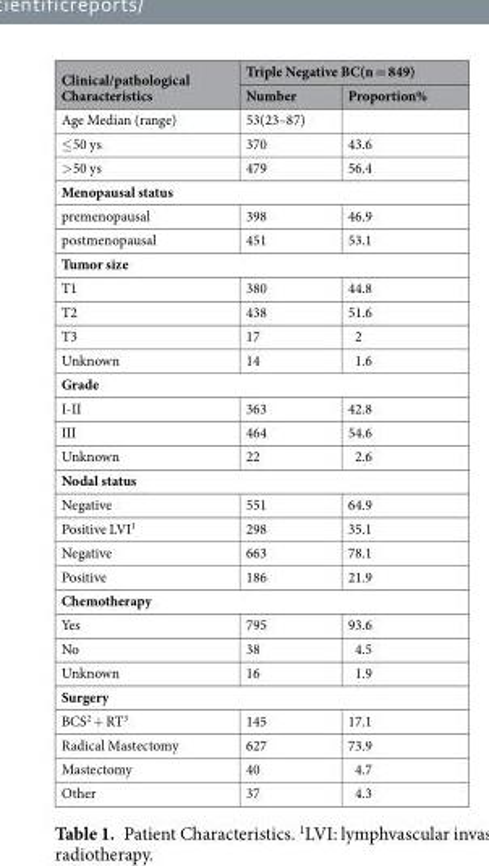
<table><thead><tr><td rowspan="2">Clinical/pathological Characteristics</td><td colspan="2">Triple Negative BC(n = 849)</td></tr><tr><td>Number</td><td>Proportion%</td></tr></thead><tbody><tr><td>Age Median (range)</td><td>53(23–87)</td><td></td></tr><tr><td>≤50 ys</td><td>370</td><td>43.6</td></tr><tr><td>&gt;50 ys</td><td>479</td><td>56.4</td></tr><tr><td colspan="3">Menopausal status</td></tr><tr><td>premenopausal</td><td>398</td><td>46.9</td></tr><tr><td>postmenopausal</td><td>451</td><td>53.1</td></tr><tr><td colspan="3">Tumor size</td></tr><tr><td>T1</td><td>380</td><td>44.8</td></tr><tr><td>T2</td><td>438</td><td>51.6</td></tr><tr><td>T3</td><td>17</td><td>2</td></tr><tr><td>Unknown</td><td>14</td><td>1.6</td></tr><tr><td colspan="3">Grade</td></tr><tr><td>I-II</td><td>363</td><td>42.8</td></tr><tr><td>III</td><td>464</td><td>54.6</td></tr><tr><td>Unknown</td><td>22</td><td>2.6</td></tr><tr><td colspan="3">Nodal status</td></tr><tr><td>Negative</td><td>551</td><td>64.9</td></tr><tr><td>Positive LVI<sup>1</sup></td><td>298</td><td>35.1</td></tr><tr><td>Negative</td><td>663</td><td>78.1</td></tr><tr><td>Positive</td><td>186</td><td>21.9</td></tr><tr><td colspan="3">Chemotherapy</td></tr><tr><td>Yes</td><td>795</td><td>93.6</td></tr><tr><td>No</td><td>38</td><td>4.5</td></tr><tr><td>Unknown</td><td>16</td><td>1.9</td></tr><tr><td colspan="3">Surgery</td></tr><tr><td>BCS<sup>2</sup> + RT<sup>3</sup></td><td>145</td><td>17.1</td></tr><tr><td>Radical Mastectomy</td><td>627</td><td>73.9</td></tr><tr><td>Mastectomy</td><td>40</td><td>4.7</td></tr><tr><td>Other</td><td>37</td><td>4.3</td></tr></tbody></table>